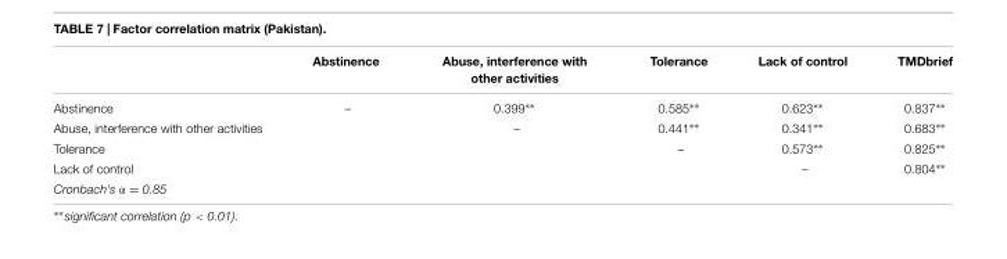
<table><thead><tr><td></td><td>Abstinence</td><td>Abuse, interference with other activities</td><td>Tolerance</td><td>Lack of control</td><td>TMDbrief</td></tr></thead><tbody><tr><td>Abstinence</td><td>–</td><td>0.399∗∗</td><td>0.585∗∗</td><td>0.623∗∗</td><td>0.837∗∗</td></tr><tr><td>Abuse, interference with other activities</td><td></td><td>–</td><td>0.441∗∗</td><td>0.341∗∗</td><td>0.683∗∗</td></tr><tr><td>Tolerance</td><td></td><td></td><td>–</td><td>0.573∗∗</td><td>0.825∗∗</td></tr><tr><td>Lack of control</td><td></td><td></td><td></td><td>–</td><td>0.804∗∗</td></tr><tr><td>Cronbach’s α = 0.85</td><td></td><td></td><td></td><td></td><td></td></tr></tbody></table>